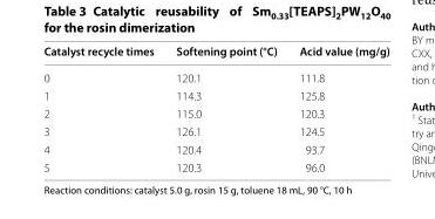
<table><thead><tr><td>Catalyst recycle times</td><td>Softening point (°C)</td><td>Acid value (mg/g)</td></tr></thead><tbody><tr><td>0</td><td>120.1</td><td>111.8</td></tr><tr><td>1</td><td>114.3</td><td>125.8</td></tr><tr><td>2</td><td>115.0</td><td>120.3</td></tr><tr><td>3</td><td>126.1</td><td>124.5</td></tr><tr><td>4</td><td>120.4</td><td>93.7</td></tr><tr><td>5</td><td>120.3</td><td>96.0</td></tr></tbody></table>